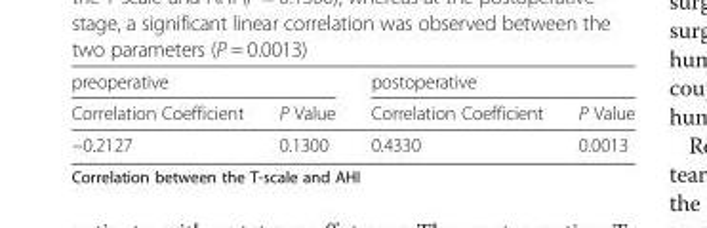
<table><thead><tr><td colspan="2">preoperative</td><td colspan="2">postoperative</td></tr><tr><td>Correlation Coefficient</td><td>P Value</td><td>Correlation Coefficient</td><td>P Value</td></tr></thead><tbody><tr><td>−0.2127</td><td>0.1300</td><td>0.4330</td><td>0.0013</td></tr></tbody></table>